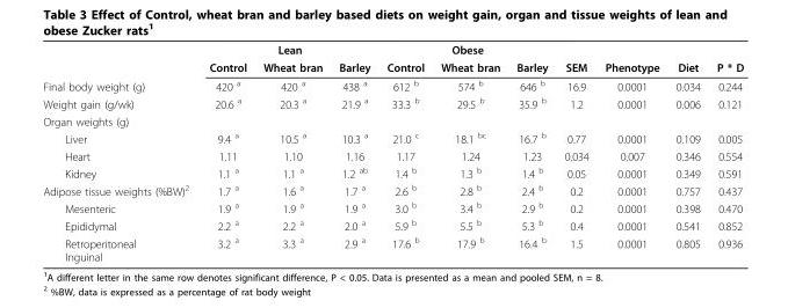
<table><thead><tr><td rowspan="2"></td><td colspan="3">Lean</td><td colspan="3">Obese</td><td rowspan="2">SEM</td><td rowspan="2">Phenotype</td><td rowspan="2">Diet</td><td rowspan="2">P * D</td></tr><tr><td>Control</td><td>Wheat bran</td><td>Barley</td><td>Control</td><td>Wheat bran</td><td>Barley</td></tr></thead><tbody><tr><td>Final body weight (g)</td><td>420 <sup>a</sup></td><td>420 <sup>a</sup></td><td>438 <sup>a</sup></td><td>612 <sup>b</sup></td><td>574 <sup>b</sup></td><td>646 <sup>b</sup></td><td>16.9</td><td>0.0001</td><td>0.034</td><td>0.244</td></tr><tr><td>Weight gain (g/wk)</td><td>20.6 <sup>a</sup></td><td>20.3 <sup>a</sup></td><td>21.9 <sup>a</sup></td><td>33.3 <sup>b</sup></td><td>29.5 <sup>b</sup></td><td>35.9 <sup>b</sup></td><td>1.2</td><td>0.0001</td><td>0.006</td><td>0.121</td></tr><tr><td colspan="11">Organ weights (g)</td></tr><tr><td>Liver</td><td>9.4 <sup>a</sup></td><td>10.5 <sup>a</sup></td><td>10.3 <sup>a</sup></td><td>21.0 <sup>c</sup></td><td>18.1 <sup>bc</sup></td><td>16.7 <sup>b</sup></td><td>0.77</td><td>0.0001</td><td>0.109</td><td>0.005</td></tr><tr><td>Heart</td><td>1.11</td><td>1.10</td><td>1.16</td><td>1.17</td><td>1.24</td><td>1.23</td><td>0.034</td><td>0.007</td><td>0.346</td><td>0.554</td></tr><tr><td>Kidney</td><td>1.1 <sup>a</sup></td><td>1.1 <sup>a</sup></td><td>1.2 <sup>ab</sup></td><td>1.4 <sup>b</sup></td><td>1.3 <sup>b</sup></td><td>1.4 <sup>b</sup></td><td>0.05</td><td>0.0001</td><td>0.349</td><td>0.591</td></tr><tr><td>Adipose tissue weights (%BW)<sup>2</sup></td><td>1.7 <sup>a</sup></td><td>1.6 <sup>a</sup></td><td>1.7 <sup>a</sup></td><td>2.6 <sup>b</sup></td><td>2.8 <sup>b</sup></td><td>2.4 <sup>b</sup></td><td>0.2</td><td>0.0001</td><td>0.757</td><td>0.437</td></tr><tr><td>Mesenteric</td><td>1.9 <sup>a</sup></td><td>1.9 <sup>a</sup></td><td>1.9 <sup>a</sup></td><td>3.0 <sup>b</sup></td><td>3.4 <sup>b</sup></td><td>2.9 <sup>b</sup></td><td>0.2</td><td>0.0001</td><td>0.398</td><td>0.470</td></tr><tr><td>Epididymal</td><td>2.2 <sup>a</sup></td><td>2.2 <sup>a</sup></td><td>2.0 <sup>a</sup></td><td>5.9 <sup>b</sup></td><td>5.5 <sup>b</sup></td><td>5.3 <sup>b</sup></td><td>0.4</td><td>0.0001</td><td>0.541</td><td>0.852</td></tr><tr><td>Retroperitoneal Inguinal</td><td>3.2 <sup>a</sup></td><td>3.3 <sup>a</sup></td><td>2.9 <sup>a</sup></td><td>17.6 <sup>b</sup></td><td>17.9 <sup>b</sup></td><td>16.4 <sup>b</sup></td><td>1.5</td><td>0.0001</td><td>0.805</td><td>0.936</td></tr></tbody></table>